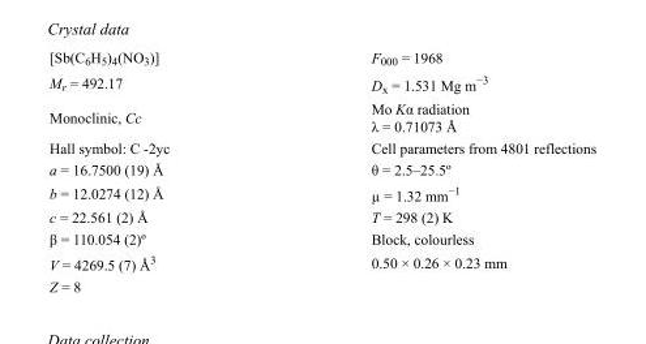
<table><tbody><tr><td>[Sb(C<sub>6</sub>H<sub>5</sub>)<sub>4</sub>(NO<sub>3</sub>)]</td><td>F000 = 1968</td></tr><tr><td>M<sub>r</sub> = 492.17</td><td>D<sub>x</sub> = 1.531 Mg m<sup>−3</sup></td></tr><tr><td>Monoclinic, Cc</td><td>Mo Kα radiation λ = 0.71073 Å</td></tr><tr><td>Hall symbol: C -2yc</td><td>Cell parameters from 4801 reflections</td></tr><tr><td>a = 16.7500 (19) Å</td><td>θ = 2.5–25.5º</td></tr><tr><td>b = 12.0274 (12) Å</td><td>µ = 1.32 mm<sup>−1</sup></td></tr><tr><td>c = 22.561 (2) Å</td><td>T = 298 (2) K</td></tr><tr><td>β = 110.054 (2)º</td><td>Block, colourless</td></tr><tr><td>V = 4269.5 (7) Å<sup>3</sup></td><td>0.50 × 0.26 × 0.23 mm</td></tr><tr><td>Z = 8</td><td></td></tr></tbody></table>